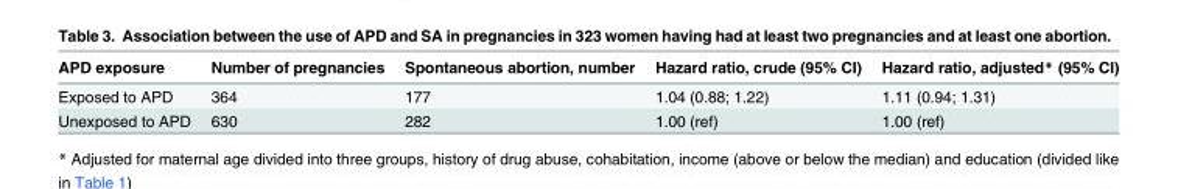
<table><thead><tr><td>APD exposure</td><td>Number of pregnancies</td><td>Spontaneous abortion, number</td><td>Hazard ratio, crude (95% CI)</td><td>Hazard ratio, adjusted* (95% CI)</td></tr></thead><tbody><tr><td>Exposed to APD</td><td>364</td><td>177</td><td>1.04 (0.88; 1.22)</td><td>1.11 (0.94; 1.31)</td></tr><tr><td>Unexposed to APD</td><td>630</td><td>282</td><td>1.00 (ref)</td><td>1.00 (ref)</td></tr></tbody></table>